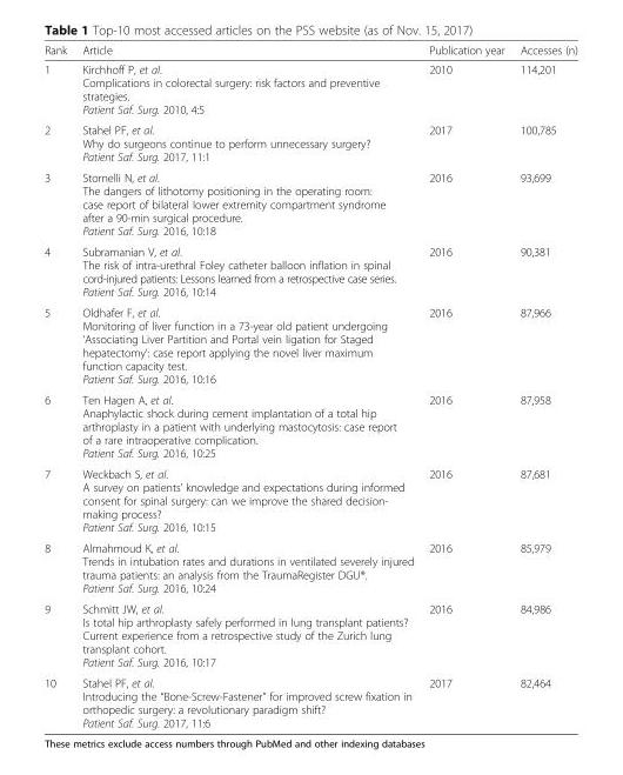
<table><thead><tr><td>Rank</td><td>Article</td><td>Publication year</td><td>Accesses (n)</td></tr></thead><tbody><tr><td>1</td><td>Kirchhoff P, et al. Complications in colorectal surgery: risk factors and preventive strategies. Patient Saf. Surg. 2010, 4:5</td><td>2010</td><td>114,201</td></tr><tr><td>2</td><td>Stahel PF, et al. Why do surgeons continue to perform unnecessary surgery? Patient Saf. Surg. 2017, 11:1</td><td>2017</td><td>100,785</td></tr><tr><td>3</td><td>Stornelli N, et al. The dangers of lithotomy positioning in the operating room: case report of bilateral lower extremity compartment syndrome after a 90-min surgical procedure. Patient Saf. Surg. 2016, 10:18</td><td>2016</td><td>93,699</td></tr><tr><td>4</td><td>Subramanian V, et al. The risk of intra-urethral Foley catheter balloon inflation in spinal cord-injured patients: Lessons learned from a retrospective case series. Patient Saf. Surg. 2016, 10:14</td><td>2016</td><td>90,381</td></tr><tr><td>5</td><td>Oldhafer F, et al. Monitoring of liver function in a 73-year old patient undergoing ‘Associating Liver Partition and Portal vein ligation for Staged hepatectomy’: case report applying the novel liver maximum function capacity test. Patient Saf. Surg. 2016, 10:16</td><td>2016</td><td>87,966</td></tr><tr><td>6</td><td>Ten Hagen A, et al. Anaphylactic shock during cement implantation of a total hip arthroplasty in a patient with underlying mastocytosis: case report of a rare intraoperative complication. Patient Saf. Surg. 2016, 10:25</td><td>2016</td><td>87,958</td></tr><tr><td>7</td><td>Weckbach S, et al. A survey on patients’ knowledge and expectations during informed consent for spinal surgery: can we improve the shared decision- making process? Patient Saf. Surg. 2016, 10:15</td><td>2016</td><td>87,681</td></tr><tr><td>8</td><td>Almahmoud K, et al. Trends in intubation rates and durations in ventilated severely injured trauma patients: an analysis from the TraumaRegister DGU®. Patient Saf. Surg. 2016, 10:24</td><td>2016</td><td>85,979</td></tr><tr><td>9</td><td>Schmitt JW, et al. Is total hip arthroplasty safely performed in lung transplant patients? Current experience from a retrospective study of the Zurich lung transplant cohort. Patient Saf. Surg. 2016, 10:17</td><td>2016</td><td>84,986</td></tr><tr><td>10</td><td>Stahel PF, et al. Introducing the “Bone-Screw-Fastener” for improved screw fixation in orthopedic surgery: a revolutionary paradigm shift? Patient Saf. Surg. 2017, 11:6</td><td>2017</td><td>82,464</td></tr></tbody></table>